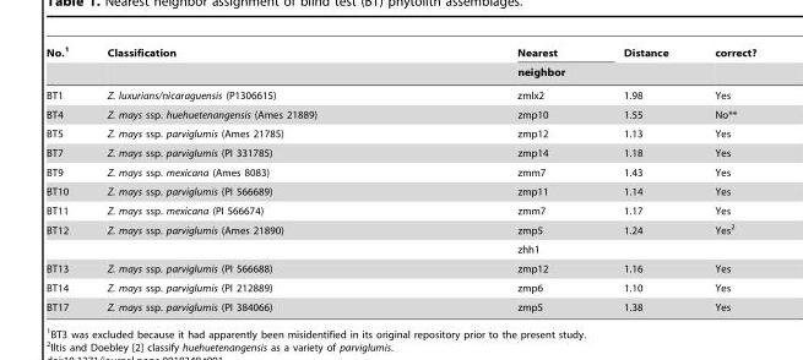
<table><thead><tr><td rowspan="2">No.<sup>1</sup></td><td rowspan="2">Classification</td><td rowspan="2">Nearest neighbor</td><td rowspan="2">Distance</td><td rowspan="2">correct?</td></tr><tr></tr></thead><tbody><tr><td>BT1</td><td>Z. luxurians/nicaraguensis (P1306615)</td><td>zmlx2</td><td>1.98</td><td>Yes</td></tr><tr><td>BT4</td><td>Z. mays ssp. huehuetenangensis (Ames 21889)</td><td>zmp10</td><td>1.55</td><td>No**</td></tr><tr><td>BT5</td><td>Z. mays ssp. parviglumis (Ames 21785)</td><td>zmp12</td><td>1.13</td><td>Yes</td></tr><tr><td>BT7</td><td>Z. mays ssp. parviglumis (PI 331785)</td><td>zmp14</td><td>1.18</td><td>Yes</td></tr><tr><td>BT9</td><td>Z. mays ssp. mexicana (Ames 8083)</td><td>zmm7</td><td>1.43</td><td>Yes</td></tr><tr><td>BT10</td><td>Z. mays ssp. parviglumis (PI 566689)</td><td>zmp11</td><td>1.14</td><td>Yes</td></tr><tr><td>BT11</td><td>Z. mays ssp. mexicana (PI 566674)</td><td>zmm7</td><td>1.17</td><td>Yes</td></tr><tr><td rowspan="2">BT12</td><td>Z. mays ssp. parviglumis (Ames 21890)</td><td>zmp5</td><td>1.24</td><td>Yes<sup>2</sup></td></tr><tr><td></td><td>zhh1</td><td></td><td></td></tr><tr><td>BT13</td><td>Z. mays ssp. parviglumis (PI 566688)</td><td>zmp12</td><td>1.16</td><td>Yes</td></tr><tr><td>BT14</td><td>Z. mays ssp. parviglumis (PI 212889)</td><td>zmp6</td><td>1.10</td><td>Yes</td></tr><tr><td>BT17</td><td>Z. mays ssp. parviglumis (PI 384066)</td><td>zmp5</td><td>1.38</td><td>Yes</td></tr></tbody></table>